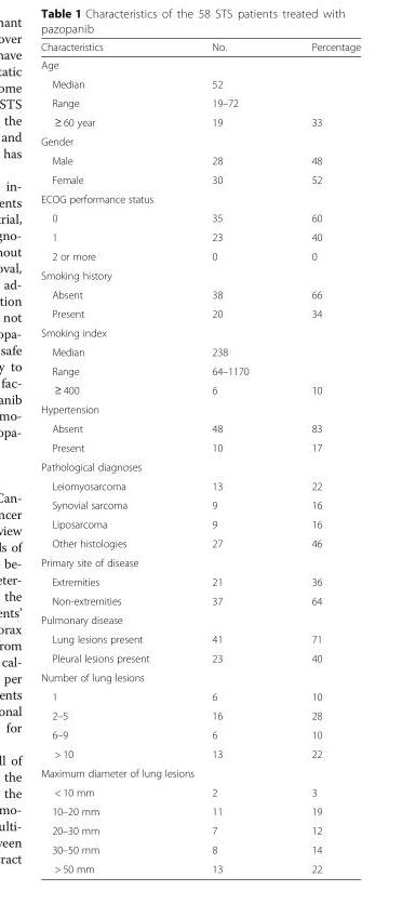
<table><thead><tr><td>Characteristics</td><td>No.</td><td>Percentage</td></tr></thead><tbody><tr><td colspan="3">Age</td></tr><tr><td>Median</td><td>52</td><td></td></tr><tr><td>Range</td><td>19–72</td><td></td></tr><tr><td>≥ 60 year</td><td>19</td><td>33</td></tr><tr><td colspan="3">Gender</td></tr><tr><td>Male</td><td>28</td><td>48</td></tr><tr><td>Female</td><td>30</td><td>52</td></tr><tr><td colspan="3">ECOG performance status</td></tr><tr><td>0</td><td>35</td><td>60</td></tr><tr><td>1</td><td>23</td><td>40</td></tr><tr><td>2 or more</td><td>0</td><td>0</td></tr><tr><td colspan="3">Smoking history</td></tr><tr><td>Absent</td><td>38</td><td>66</td></tr><tr><td>Present</td><td>20</td><td>34</td></tr><tr><td colspan="3">Smoking index</td></tr><tr><td>Median</td><td>238</td><td></td></tr><tr><td>Range</td><td>64–1170</td><td></td></tr><tr><td>≥ 400</td><td>6</td><td>10</td></tr><tr><td colspan="3">Hypertension</td></tr><tr><td>Absent</td><td>48</td><td>83</td></tr><tr><td>Present</td><td>10</td><td>17</td></tr><tr><td colspan="3">Pathological diagnoses</td></tr><tr><td>Leiomyosarcoma</td><td>13</td><td>22</td></tr><tr><td>Synovial sarcoma</td><td>9</td><td>16</td></tr><tr><td>Liposarcoma</td><td>9</td><td>16</td></tr><tr><td>Other histologies</td><td>27</td><td>46</td></tr><tr><td colspan="3">Primary site of disease</td></tr><tr><td>Extremities</td><td>21</td><td>36</td></tr><tr><td>Non-extremities</td><td>37</td><td>64</td></tr><tr><td colspan="3">Pulmonary disease</td></tr><tr><td>Lung lesions present</td><td>41</td><td>71</td></tr><tr><td>Pleural lesions present</td><td>23</td><td>40</td></tr><tr><td colspan="3">Number of lung lesions</td></tr><tr><td>1</td><td>6</td><td>10</td></tr><tr><td>2–5</td><td>16</td><td>28</td></tr><tr><td>6–9</td><td>6</td><td>10</td></tr><tr><td>&gt; 10</td><td>13</td><td>22</td></tr><tr><td colspan="3">Maximum diameter of lung lesions</td></tr><tr><td>&lt; 10 mm</td><td>2</td><td>3</td></tr><tr><td>10–20 mm</td><td>11</td><td>19</td></tr><tr><td>20–30 mm</td><td>7</td><td>12</td></tr><tr><td>30–50 mm</td><td>8</td><td>14</td></tr><tr><td>&gt; 50 mm</td><td>13</td><td>22</td></tr></tbody></table>